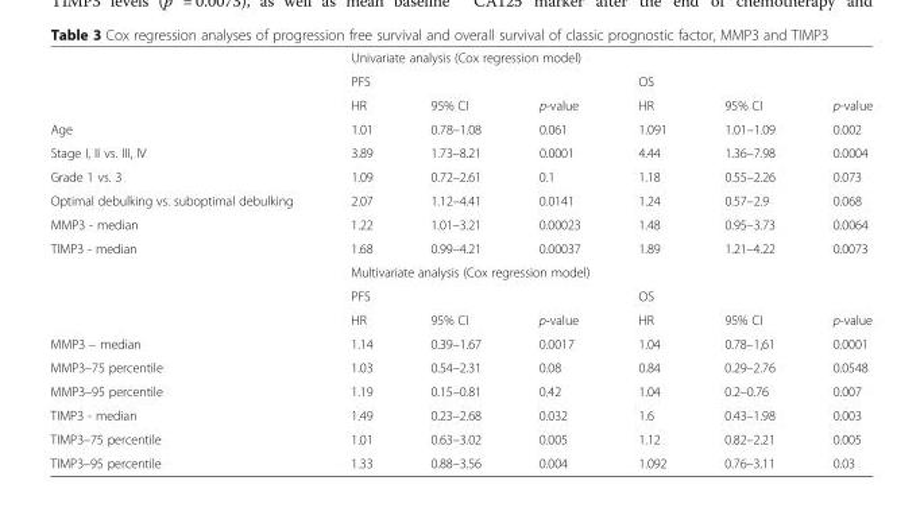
<table><thead><tr><td rowspan="3"></td><td colspan="6">Univariate analysis (Cox regression model)</td></tr><tr><td colspan="3">PFS</td><td colspan="3">OS</td></tr><tr><td>HR</td><td>95% CI</td><td>p-value</td><td>HR</td><td>95% CI</td><td>p-value</td></tr></thead><tbody><tr><td>Age</td><td>1.01</td><td>0.78–1.08</td><td>0.061</td><td>1.091</td><td>1.01–1.09</td><td>0.002</td></tr><tr><td>Stage I, II vs. III, IV</td><td>3.89</td><td>1.73–8.21</td><td>0.0001</td><td>4.44</td><td>1.36–7.98</td><td>0.0004</td></tr><tr><td>Grade 1 vs. 3</td><td>1.09</td><td>0.72–2.61</td><td>0.1</td><td>1.18</td><td>0.55–2.26</td><td>0.073</td></tr><tr><td>Optimal debulking vs. suboptimal debulking</td><td>2.07</td><td>1.12–4.41</td><td>0.0141</td><td>1.24</td><td>0.57–2.9</td><td>0.068</td></tr><tr><td>MMP3 - median</td><td>1.22</td><td>1.01–3.21</td><td>0.00023</td><td>1.48</td><td>0.95–3.73</td><td>0.0064</td></tr><tr><td rowspan="4">TIMP3 - median</td><td>1.68</td><td>0.99–4.21</td><td>0.00037</td><td>1.89</td><td>1.21–4.22</td><td>0.0073</td></tr><tr><td colspan="6">Multivariate analysis (Cox regression model)</td></tr><tr><td colspan="3">PFS</td><td colspan="3">OS</td></tr><tr><td>HR</td><td>95% CI</td><td>p-value</td><td>HR</td><td>95% CI</td><td>p-value</td></tr><tr><td>MMP3 – median</td><td>1.14</td><td>0.39–1.67</td><td>0.0017</td><td>1.04</td><td>0.78–1,61</td><td>0.0001</td></tr><tr><td>MMP3–75 percentile</td><td>1.03</td><td>0.54–2.31</td><td>0.08</td><td>0.84</td><td>0.29–2.76</td><td>0.0548</td></tr><tr><td>MMP3–95 percentile</td><td>1.19</td><td>0.15–0.81</td><td>0.42</td><td>1.04</td><td>0.2–0.76</td><td>0.007</td></tr><tr><td>TIMP3 - median</td><td>1.49</td><td>0.23–2.68</td><td>0.032</td><td>1.6</td><td>0.43–1.98</td><td>0.003</td></tr><tr><td>TIMP3–75 percentile</td><td>1.01</td><td>0.63–3.02</td><td>0.005</td><td>1.12</td><td>0.82–2.21</td><td>0.005</td></tr><tr><td>TIMP3–95 percentile</td><td>1.33</td><td>0.88–3.56</td><td>0.004</td><td>1.092</td><td>0.76–3.11</td><td>0.03</td></tr></tbody></table>